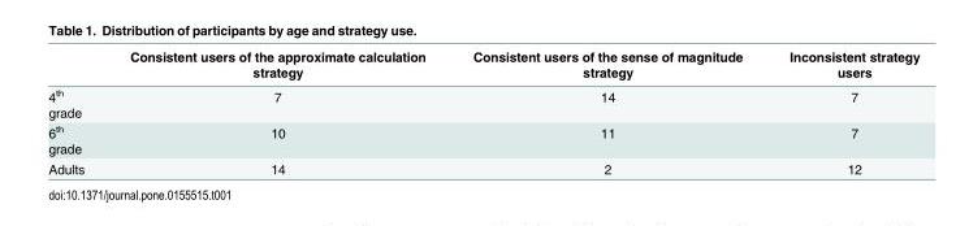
<table><thead><tr><td></td><td>Consistent users of the approximate calculation strategy</td><td>Consistent users of the sense of magnitude strategy</td><td>Inconsistent strategy users</td></tr></thead><tbody><tr><td>4<sup>th</sup> grade</td><td>7</td><td>14</td><td>7</td></tr><tr><td>6<sup>th</sup> grade</td><td>10</td><td>11</td><td>7</td></tr><tr><td>Adults</td><td>14</td><td>2</td><td>12</td></tr></tbody></table>